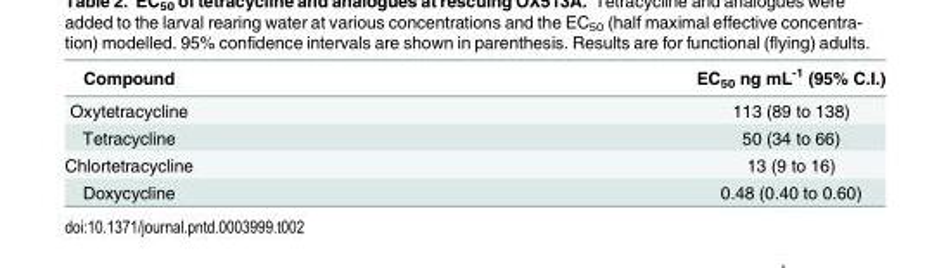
<table><thead><tr><td>Compound</td><td>EC<sub>50</sub> ng mL<sup>-1</sup> (95% C.I.)</td></tr></thead><tbody><tr><td>Oxytetracycline</td><td>113 (89 to 138)</td></tr><tr><td>Tetracycline</td><td>50 (34 to 66)</td></tr><tr><td>Chlortetracycline</td><td>13 (9 to 16)</td></tr><tr><td>Doxycycline</td><td>0.48 (0.40 to 0.60)</td></tr></tbody></table>